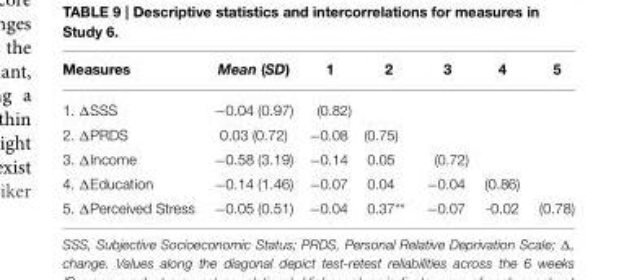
<table><thead><tr><td>Measures</td><td>Mean (SD)</td><td>1</td><td>2</td><td>3</td><td>4</td><td>5</td></tr></thead><tbody><tr><td>1. ΔSSS</td><td>−0.04 (0.97)</td><td>(0.82)</td><td></td><td></td><td></td><td></td></tr><tr><td>2. ΔPRDS</td><td>0.03 (0.72)</td><td>−0.08</td><td>(0.75)</td><td></td><td></td><td></td></tr><tr><td>3. ΔIncome</td><td>−0.58 (3.19)</td><td>−0.14</td><td>0.05</td><td>(0.72)</td><td></td><td></td></tr><tr><td>4. ΔEducation</td><td>−0.14 (1.46)</td><td>−0.07</td><td>0.04</td><td>−0.04</td><td>(0.86)</td><td></td></tr><tr><td>5. ΔPerceived Stress</td><td>−0.05 (0.51)</td><td>−0.04</td><td>0.37**</td><td>−0.07</td><td>-0.02</td><td>(0.78)</td></tr></tbody></table>